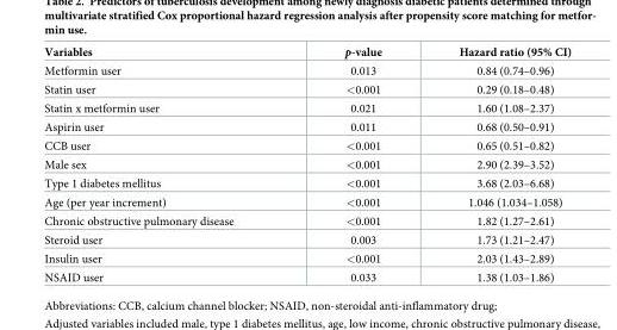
<table><thead><tr><td>Variables</td><td>p-value</td><td>Hazard ratio (95% CI)</td></tr></thead><tbody><tr><td>Metformin user</td><td>0.013</td><td>0.84 (0.74–0.96)</td></tr><tr><td>Statin user</td><td>&lt;0.001</td><td>0.29 (0.18–0.48)</td></tr><tr><td>Statin x metformin user</td><td>0.021</td><td>1.60 (1.08–2.37)</td></tr><tr><td>Aspirin user</td><td>0.011</td><td>0.68 (0.50–0.91)</td></tr><tr><td>CCB user</td><td>&lt;0.001</td><td>0.65 (0.51–0.82)</td></tr><tr><td>Male sex</td><td>&lt;0.001</td><td>2.90 (2.39–3.52)</td></tr><tr><td>Type 1 diabetes mellitus</td><td>&lt;0.001</td><td>3.68 (2.03–6.68)</td></tr><tr><td>Age (per year increment)</td><td>&lt;0.001</td><td>1.046 (1.034–1.058)</td></tr><tr><td>Chronic obstructive pulmonary disease</td><td>&lt;0.001</td><td>1.82 (1.27–2.61)</td></tr><tr><td>Steroid user</td><td>0.003</td><td>1.73 (1.21–2.47)</td></tr><tr><td>Insulin user</td><td>&lt;0.001</td><td>2.03 (1.43–2.89)</td></tr><tr><td>NSAID user</td><td>0.033</td><td>1.38 (1.03–1.86)</td></tr></tbody></table>